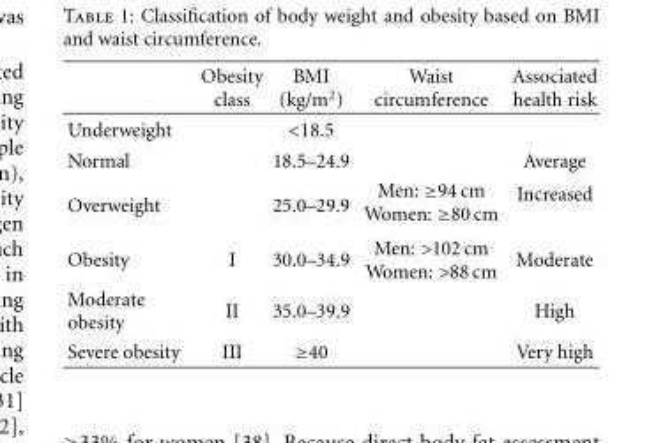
<table><thead><tr><td></td><td>Obesity class</td><td>BMI (kg/m<sup>2</sup>)</td><td>Waist circumference</td><td>Associated health risk</td></tr></thead><tbody><tr><td>Underweight</td><td></td><td>&lt;18.5</td><td></td><td></td></tr><tr><td>Normal</td><td></td><td>18.5–24.9</td><td></td><td>Average</td></tr><tr><td>Overweight</td><td></td><td>25.0–29.9</td><td>Men: ≥94 cm Women: ≥80 cm</td><td>Increased</td></tr><tr><td>Obesity</td><td>I</td><td>30.0–34.9</td><td>Men: &gt;102 cm Women: &gt;88 cm</td><td>Moderate</td></tr><tr><td>Moderate obesity</td><td>II</td><td>35.0–39.9</td><td></td><td>High</td></tr><tr><td>Severe obesity</td><td>III</td><td>≥40</td><td></td><td>Very high</td></tr></tbody></table>